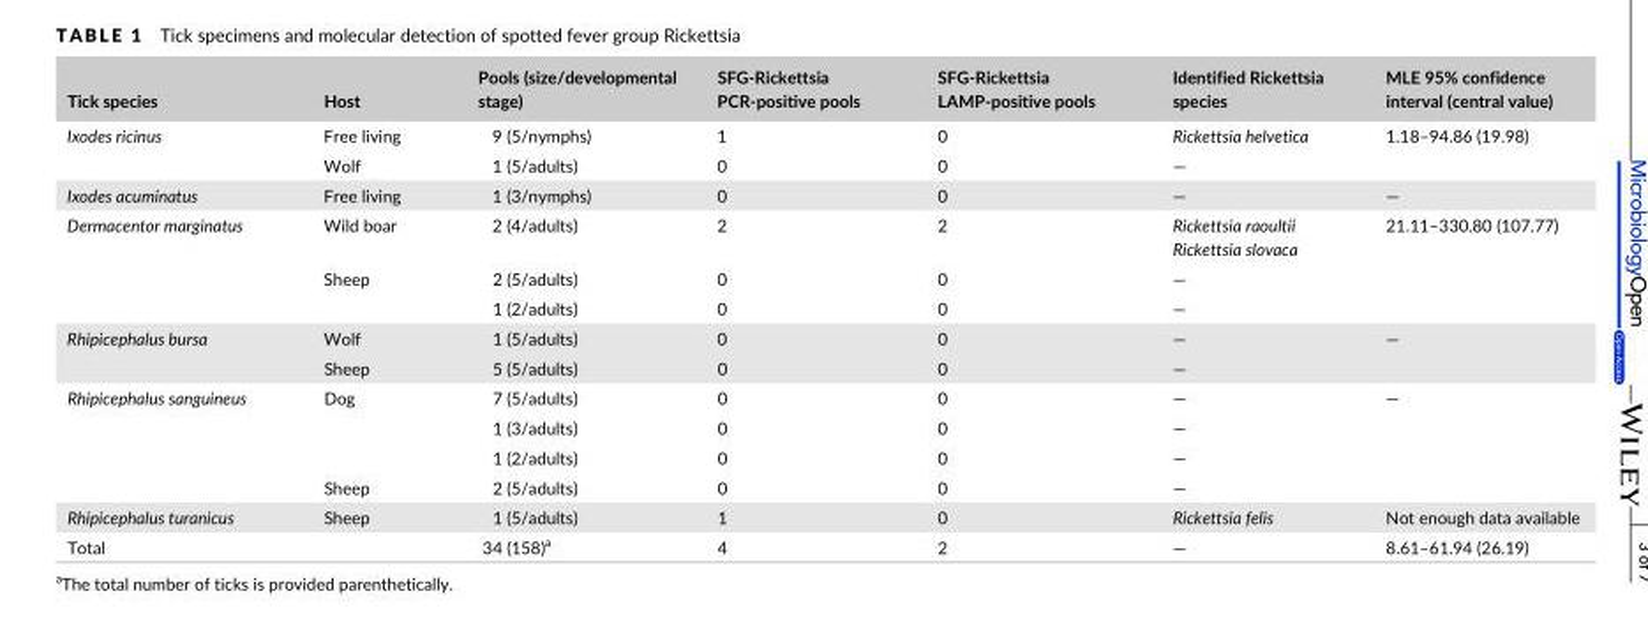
<table><thead><tr><td>Tick species</td><td>Host</td><td>Pools (size/developmental stage)</td><td>SFG- Rickettsia PCR- positive pools</td><td>SFG- Rickettsia LAMP- positive pools</td><td>Identified Rickettsia species</td><td>MLE 95% confidence interval (central value)</td></tr></thead><tbody><tr><td rowspan="2">Ixodes ricinus</td><td>Free living</td><td>9 (5/nymphs)</td><td>1</td><td>0</td><td>Rickettsia helvetica</td><td rowspan="2">1.18–94.86 (19.98)</td></tr><tr><td>Wolf</td><td>1 (5/adults)</td><td>0</td><td>0</td><td>—</td></tr><tr><td>Ixodes acuminatus</td><td>Free living</td><td>1 (3/nymphs)</td><td>0</td><td>0</td><td>—</td><td>—</td></tr><tr><td rowspan="3">Dermacentor marginatus</td><td>Wild boar</td><td>2 (4/adults)</td><td>2</td><td>2</td><td>Rickettsia raoultii Rickettsia slovaca</td><td rowspan="3">21.11–330.80 (107.77)</td></tr><tr><td rowspan="2">Sheep</td><td>2 (5/adults)</td><td>0</td><td>0</td><td>—</td></tr><tr><td>1 (2/adults)</td><td>0</td><td>0</td><td>—</td></tr><tr><td rowspan="2">Rhipicephalus bursa</td><td>Wolf</td><td>1 (5/adults)</td><td>0</td><td>0</td><td>—</td><td rowspan="2">—</td></tr><tr><td>Sheep</td><td>5 (5/adults)</td><td>0</td><td>0</td><td>—</td></tr><tr><td rowspan="4">Rhipicephalus sanguineus</td><td rowspan="3">Dog</td><td>7 (5/adults)</td><td>0</td><td>0</td><td>—</td><td rowspan="4">—</td></tr><tr><td>1 (3/adults)</td><td>0</td><td>0</td><td>—</td></tr><tr><td>1 (2/adults)</td><td>0</td><td>0</td><td>—</td></tr><tr><td>Sheep</td><td>2 (5/adults)</td><td>0</td><td>0</td><td>—</td></tr><tr><td>Rhipicephalus turanicus</td><td>Sheep</td><td>1 (5/adults)</td><td>1</td><td>0</td><td>Rickettsia felis</td><td>Not enough data available</td></tr><tr><td>Total</td><td></td><td>34 (158)<sup>a</sup></td><td>4</td><td>2</td><td>—</td><td>8.61–61.94 (26.19)</td></tr></tbody></table>